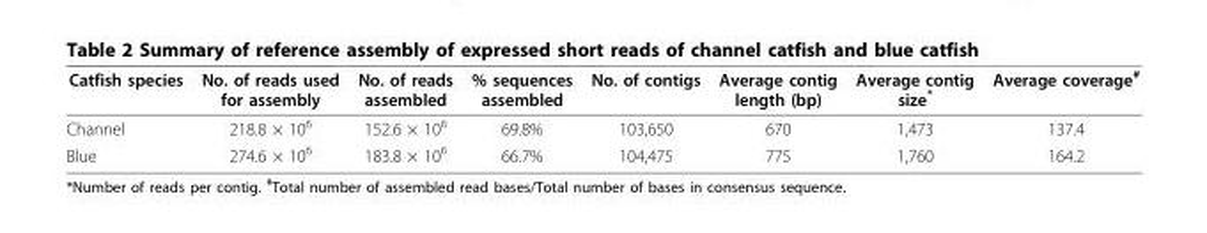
<table><thead><tr><td>Catfish species</td><td>No. of reads used for assembly</td><td>No. of reads assembled</td><td>% sequences assembled</td><td>No. of contigs</td><td>Average contig length (bp)</td><td>Average contig size*</td><td>Average coverage<sup>#</sup></td></tr></thead><tbody><tr><td>Channel</td><td>218.8 × 10<sup>6</sup></td><td>152.6 × 10<sup>6</sup></td><td>69.8%</td><td>103,650</td><td>670</td><td>1,473</td><td>137.4</td></tr><tr><td>Blue</td><td>274.6 × 10<sup>6</sup></td><td>183.8 × 10<sup>6</sup></td><td>66.7%</td><td>104,475</td><td>775</td><td>1,760</td><td>164.2</td></tr></tbody></table>